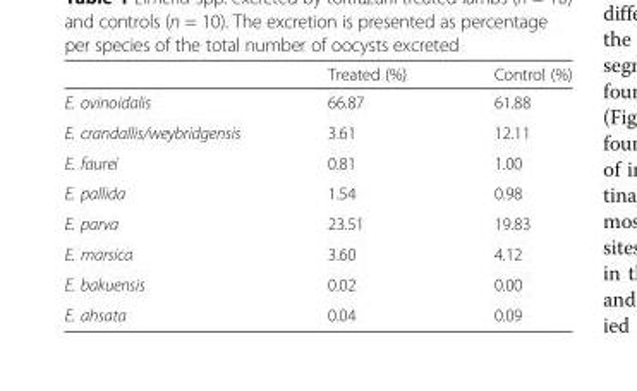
<table><thead><tr><td></td><td>Treated (%)</td><td>Control (%)</td></tr></thead><tbody><tr><td>E. ovinoidalis</td><td>66.87</td><td>61.88</td></tr><tr><td>E. crandallis/weybridgensis</td><td>3.61</td><td>12.11</td></tr><tr><td>E. faurei</td><td>0.81</td><td>1.00</td></tr><tr><td>E. pallida</td><td>1.54</td><td>0.98</td></tr><tr><td>E. parva</td><td>23.51</td><td>19.83</td></tr><tr><td>E. marsica</td><td>3.60</td><td>4.12</td></tr><tr><td>E. bakuensis</td><td>0.02</td><td>0.00</td></tr><tr><td>E. ahsata</td><td>0.04</td><td>0.09</td></tr></tbody></table>